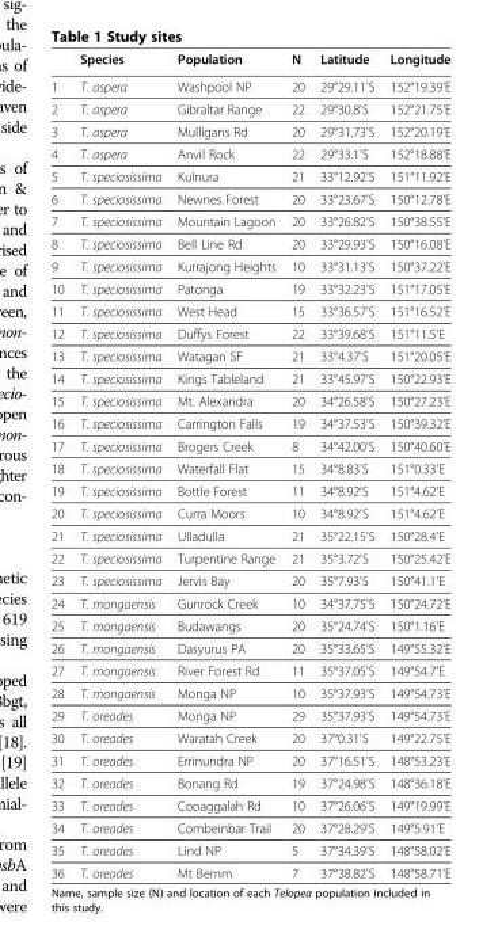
<table><thead><tr><td></td><td>Species</td><td>Population</td><td>N</td><td>Latitude</td><td>Longitude</td></tr></thead><tbody><tr><td>1</td><td>T. aspera</td><td>Washpool NP</td><td>20</td><td>29°29.11&#x27;S</td><td>152°19.39&#x27;E</td></tr><tr><td>2</td><td>T. aspera</td><td>Gibraltar Range</td><td>22</td><td>29°30.8&#x27;S</td><td>152°21.75&#x27;E</td></tr><tr><td>3</td><td>T. aspera</td><td>Mulligans Rd</td><td>20</td><td>29°31.73&#x27;S</td><td>152°20.19&#x27;E</td></tr><tr><td>4</td><td>T. aspera</td><td>Anvil Rock</td><td>22</td><td>29°33.1&#x27;S</td><td>152°18.88&#x27;E</td></tr><tr><td>5</td><td>T. speciosissima</td><td>Kulnura</td><td>21</td><td>33°12.92&#x27;S</td><td>151°11.92&#x27;E</td></tr><tr><td>6</td><td>T. speciosissima</td><td>Newnes Forest</td><td>20</td><td>33°23.67&#x27;S</td><td>150°12.78&#x27;E</td></tr><tr><td>7</td><td>T. speciosissima</td><td>Mountain Lagoon</td><td>20</td><td>33°26.82&#x27;S</td><td>150°38.55&#x27;E</td></tr><tr><td>8</td><td>T. speciosissima</td><td>Bell Line Rd</td><td>20</td><td>33°29.93&#x27;S</td><td>150°16.08&#x27;E</td></tr><tr><td>9</td><td>T. speciosissima</td><td>Kurrajong Heights</td><td>10</td><td>33°31.13&#x27;S</td><td>150°37.22&#x27;E</td></tr><tr><td>10</td><td>T. speciosissima</td><td>Patonga</td><td>19</td><td>33°32.23&#x27;S</td><td>151°17.05&#x27;E</td></tr><tr><td>11</td><td>T. speciosissima</td><td>West Head</td><td>15</td><td>33°36.57&#x27;S</td><td>151°16.52&#x27;E</td></tr><tr><td>12</td><td>T. speciosissima</td><td>Duffys Forest</td><td>22</td><td>33°39.68&#x27;S</td><td>151°11.5&#x27;E</td></tr><tr><td>13</td><td>T. speciosissima</td><td>Watagan SF</td><td>21</td><td>33°4.37&#x27;S</td><td>151°20.05&#x27;E</td></tr><tr><td>14</td><td>T. speciosissima</td><td>Kings Tableland</td><td>21</td><td>33°45.97&#x27;S</td><td>150°22.93&#x27;E</td></tr><tr><td>15</td><td>T. speciosissima</td><td>Mt. Alexandra</td><td>20</td><td>34°26.58&#x27;S</td><td>150°27.23&#x27;E</td></tr><tr><td>16</td><td>T. speciosissima</td><td>Carrington Falls</td><td>19</td><td>34°37.53&#x27;S</td><td>150°39.32&#x27;E</td></tr><tr><td>17</td><td>T. speciosissima</td><td>Brogers Creek</td><td>8</td><td>34°42.00&#x27;S</td><td>150°40.60&#x27;E</td></tr><tr><td>18</td><td>T. speciosissima</td><td>Waterfall Flat</td><td>15</td><td>34°8.83&#x27;S</td><td>151°0.33&#x27;E</td></tr><tr><td>19</td><td>T. speciosissima</td><td>Bottle Forest</td><td>11</td><td>34°8.92&#x27;S</td><td>151°4.62&#x27;E</td></tr><tr><td>20</td><td>T. speciosissima</td><td>Curra Moors</td><td>10</td><td>34°8.92&#x27;S</td><td>151°4.62&#x27;E</td></tr><tr><td>21</td><td>T. speciosissima</td><td>Ulladulla</td><td>21</td><td>35°22.15&#x27;S</td><td>150°28.4&#x27;E</td></tr><tr><td>22</td><td>T. speciosissima</td><td>Turpentine Range</td><td>21</td><td>35°3.72&#x27;S</td><td>150°25.42&#x27;E</td></tr><tr><td>23</td><td>T. speciosissima</td><td>Jervis Bay</td><td>20</td><td>35°7.93&#x27;S</td><td>150°41.1&#x27;E</td></tr><tr><td>24</td><td>T. mongaensis</td><td>Gunrock Creek</td><td>10</td><td>34°37.75&#x27;S</td><td>150°24.72&#x27;E</td></tr><tr><td>25</td><td>T. mongaensis</td><td>Budawangs</td><td>20</td><td>35°24.74&#x27;S</td><td>150°1.16&#x27;E</td></tr><tr><td>26</td><td>T. mongaensis</td><td>Dasyurus PA</td><td>20</td><td>35°33.65&#x27;S</td><td>149°55.32&#x27;E</td></tr><tr><td>27</td><td>T. mongaensis</td><td>River Forest Rd</td><td>11</td><td>35°37.05&#x27;S</td><td>149°54.7&#x27;E</td></tr><tr><td>28</td><td>T. mongaensis</td><td>Monga NP</td><td>10</td><td>35°37.93&#x27;S</td><td>149°54.73&#x27;E</td></tr><tr><td>29</td><td>T. oreades</td><td>Monga NP</td><td>29</td><td>35°37.93&#x27;S</td><td>149°54.73&#x27;E</td></tr><tr><td>30</td><td>T. oreades</td><td>Waratah Creek</td><td>20</td><td>37°0.31&#x27;S</td><td>149°22.75&#x27;E</td></tr><tr><td>31</td><td>T. oreades</td><td>Errinundra NP</td><td>20</td><td>37°16.51&#x27;S</td><td>148°53.23&#x27;E</td></tr><tr><td>32</td><td>T. oreades</td><td>Bonang Rd</td><td>19</td><td>37°24.98&#x27;S</td><td>148°36.18&#x27;E</td></tr><tr><td>33</td><td>T. oreades</td><td>Cooaggalah Rd</td><td>10</td><td>37°26.06&#x27;S</td><td>149°19.99&#x27;E</td></tr><tr><td>34</td><td>T. oreades</td><td>Combeinbar Trail</td><td>20</td><td>37°28.29&#x27;S</td><td>149°5.91&#x27;E</td></tr><tr><td>35</td><td>T. oreades</td><td>Lind NP</td><td>5</td><td>37°34.39&#x27;S</td><td>148°58.02&#x27;E</td></tr><tr><td>36</td><td>T. oreades</td><td>Mt Bemm</td><td>7</td><td>37°38.82&#x27;S</td><td>148°58.71&#x27;E</td></tr></tbody></table>